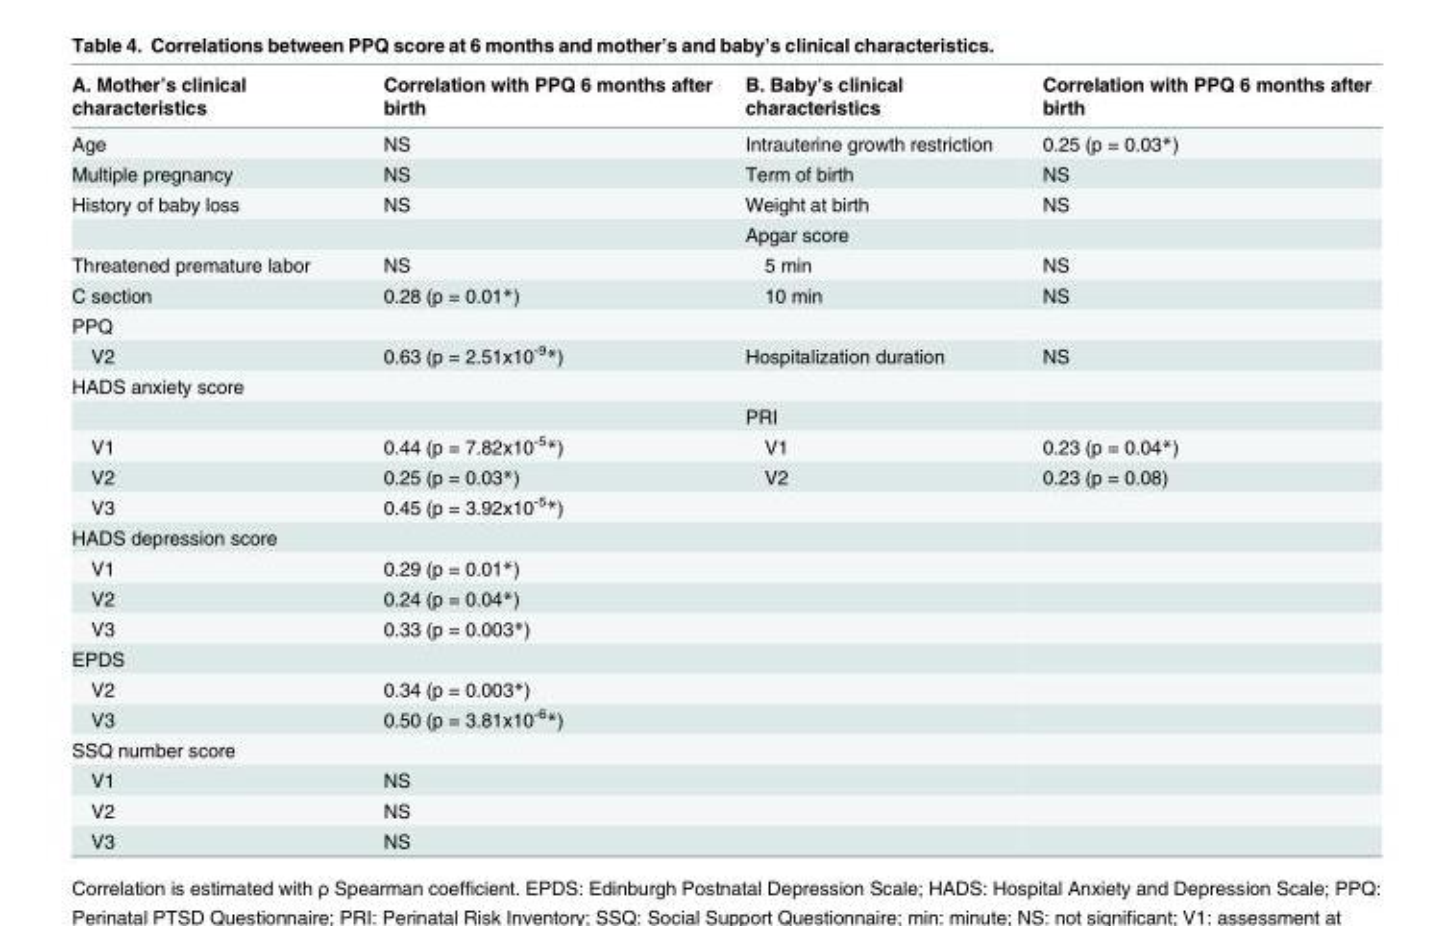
<table><thead><tr><td>A. Mother’s clinical characteristics</td><td>Correlation with PPQ 6 months after birth</td><td>B. Baby’s clinical characteristics</td><td>Correlation with PPQ 6 months after birth</td></tr></thead><tbody><tr><td>Age</td><td>NS</td><td>Intrauterine growth restriction</td><td>0.25 (p = 0.03*)</td></tr><tr><td>Multiple pregnancy</td><td>NS</td><td>Term of birth</td><td>NS</td></tr><tr><td rowspan="2">History of baby loss</td><td>NS</td><td>Weight at birth</td><td>NS</td></tr><tr><td></td><td>Apgar score</td><td></td></tr><tr><td>Threatened premature labor</td><td>NS</td><td>5 min</td><td>NS</td></tr><tr><td>C section</td><td>0.28 (p = 0.01*)</td><td>10 min</td><td>NS</td></tr><tr><td colspan="4">PPQ</td></tr><tr><td>V2</td><td>0.63 (p = 2.51x10<sup>-9</sup>*)</td><td>Hospitalization duration</td><td>NS</td></tr><tr><td colspan="4">HADS anxiety score</td></tr><tr><td></td><td></td><td>PRI</td><td></td></tr><tr><td>V1</td><td>0.44 (p = 7.82x10<sup>-5</sup>*)</td><td>V1</td><td>0.23 (p = 0.04*)</td></tr><tr><td>V2</td><td>0.25 (p = 0.03*)</td><td>V2</td><td>0.23 (p = 0.08)</td></tr><tr><td>V3</td><td>0.45 (p = 3.92x10<sup>-5</sup>*)</td><td></td><td></td></tr><tr><td colspan="4">HADS depression score</td></tr><tr><td>V1</td><td>0.29 (p = 0.01*)</td><td></td><td></td></tr><tr><td>V2</td><td>0.24 (p = 0.04*)</td><td></td><td></td></tr><tr><td>V3</td><td>0.33 (p = 0.003*)</td><td></td><td></td></tr><tr><td colspan="4">EPDS</td></tr><tr><td>V2</td><td>0.34 (p = 0.003*)</td><td></td><td></td></tr><tr><td>V3</td><td>0.50 (p = 3.81x10<sup>-6</sup>*)</td><td></td><td></td></tr><tr><td colspan="4">SSQ number score</td></tr><tr><td>V1</td><td>NS</td><td></td><td></td></tr><tr><td>V2</td><td>NS</td><td></td><td></td></tr><tr><td>V3</td><td>NS</td><td></td><td></td></tr></tbody></table>